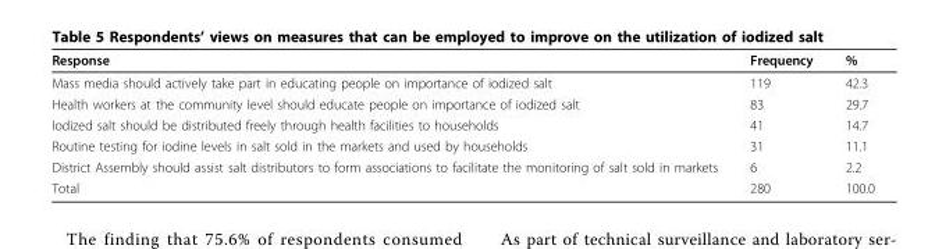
<table><thead><tr><td>Response</td><td>Frequency</td><td>%</td></tr></thead><tbody><tr><td>Mass media should actively take part in educating people on importance of iodized salt</td><td>119</td><td>42.3</td></tr><tr><td>Health workers at the community level should educate people on importance of iodized salt</td><td>83</td><td>29.7</td></tr><tr><td>Iodized salt should be distributed freely through health facilities to households</td><td>41</td><td>14.7</td></tr><tr><td>Routine testing for iodine levels in salt sold in the markets and used by households</td><td>31</td><td>11.1</td></tr><tr><td>District Assembly should assist salt distributors to form associations to facilitate the monitoring of salt sold in markets</td><td>6</td><td>2.2</td></tr><tr><td>Total</td><td>280</td><td>100.0</td></tr></tbody></table>